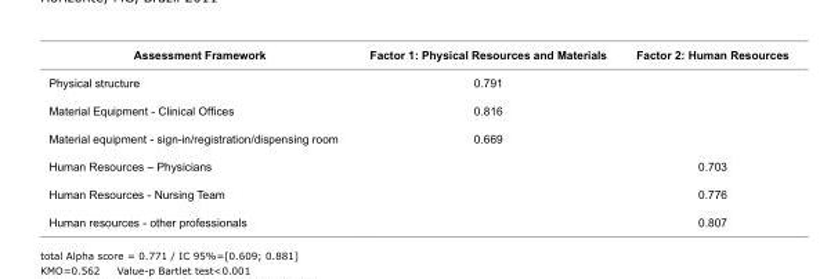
<table><tbody><tr><td>Assessment Framework</td><td>Factor 1: Physical Resources and Materials</td><td>Factor 2: Human Resources</td></tr><tr><td>Physical structure</td><td>0.791</td><td></td></tr><tr><td>Material Equipment - Clinical Offices</td><td>0.816</td><td></td></tr><tr><td>Material equipment - sign-in/registration/dispensing room</td><td>0.669</td><td></td></tr><tr><td>Human Resources – Physicians</td><td></td><td>0.703</td></tr><tr><td>Human Resources - Nursing Team</td><td></td><td>0.776</td></tr><tr><td>Human resources - other professionals</td><td></td><td>0.807</td></tr></tbody></table>